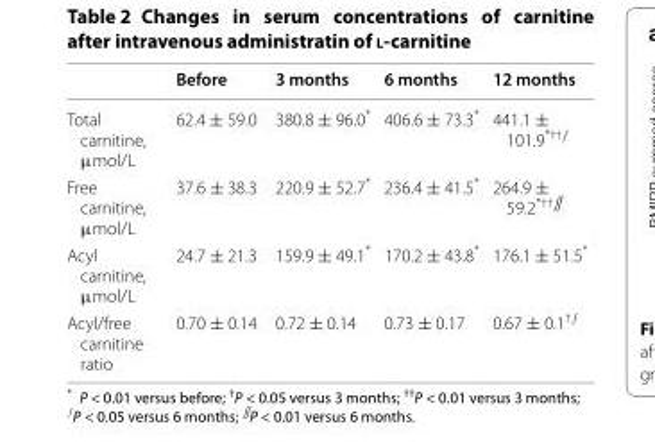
<table><thead><tr><td></td><td>Before</td><td>3 months</td><td>6 months</td><td>12 months</td></tr></thead><tbody><tr><td>Total carnitine, μmol/L</td><td>62.4 ± 59.0</td><td>380.8 ± 96.0*</td><td>406.6 ± 73.3*</td><td>441.1 ± 101.9<sup>*††∫</sup></td></tr><tr><td>Free carnitine, μmol/L</td><td>37.6 ± 38.3</td><td>220.9 ± 52.7*</td><td>236.4 ± 41.5*</td><td>264.9 ± 59.2<sup>*††∬</sup></td></tr><tr><td>Acyl carnitine, μmol/L</td><td>24.7 ± 21.3</td><td>159.9 ± 49.1*</td><td>170.2 ± 43.8*</td><td>176.1 ± 51.5*</td></tr><tr><td>Acyl/free carnitine ratio</td><td>0.70 ± 0.14</td><td>0.72 ± 0.14</td><td>0.73 ± 0.17</td><td>0.67 ± 0.1<sup>†∫</sup></td></tr></tbody></table>